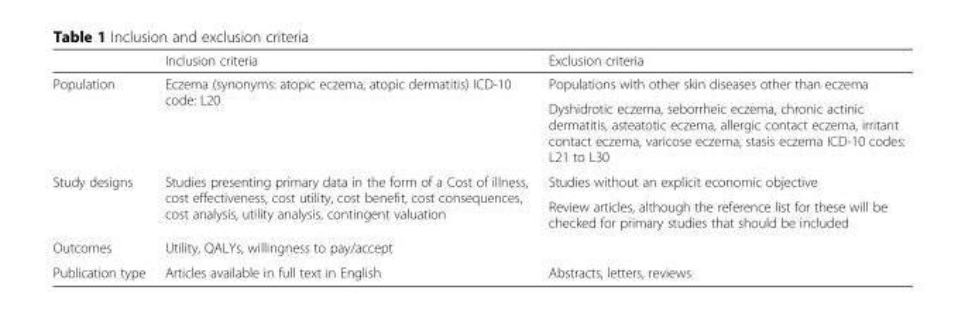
<table><thead><tr><td></td><td>Inclusion criteria</td><td>Exclusion criteria</td></tr></thead><tbody><tr><td rowspan="2">Population</td><td rowspan="2">Eczema (synonyms: atopic eczema, atopic dermatitis) ICD-10 code: L20</td><td>Populations with other skin diseases other than eczema</td></tr><tr><td>Dyshidrotic eczema, seborrheic eczema, chronic actinic dermatitis, asteatotic eczema, allergic contact eczema, irritant contact eczema, varicose eczema, stasis eczema ICD-10 codes: L21 to L30</td></tr><tr><td rowspan="2">Study designs</td><td rowspan="2">Studies presenting primary data in the form of a Cost of illness, cost effectiveness, cost utility, cost benefit, cost consequences, cost analysis, utility analysis, contingent valuation</td><td>Studies without an explicit economic objective</td></tr><tr><td>Review articles, although the reference list for these will be checked for primary studies that should be included</td></tr><tr><td>Outcomes</td><td>Utility, QALYs, willingness to pay/accept</td><td></td></tr><tr><td>Publication type</td><td>Articles available in full text in English</td><td>Abstracts, letters, reviews</td></tr></tbody></table>